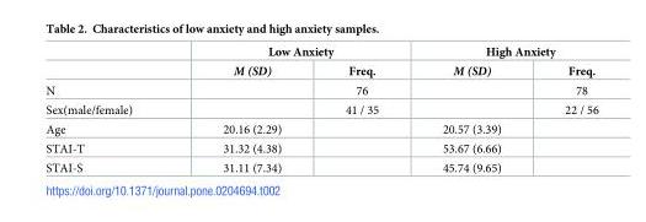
<table><thead><tr><td rowspan="2"></td><td colspan="2">Low Anxiety</td><td colspan="2">High Anxiety</td></tr><tr><td>M (SD)</td><td>Freq.</td><td>M (SD)</td><td>Freq.</td></tr></thead><tbody><tr><td>N</td><td></td><td>76</td><td></td><td>78</td></tr><tr><td>Sex(male/female)</td><td></td><td>41 / 35</td><td></td><td>22 / 56</td></tr><tr><td>Age</td><td>20.16 (2.29)</td><td></td><td>20.57 (3.39)</td><td></td></tr><tr><td>STAI-T</td><td>31.32 (4.38)</td><td></td><td>53.67 (6.66)</td><td></td></tr><tr><td>STAI-S</td><td>31.11 (7.34)</td><td></td><td>45.74 (9.65)</td><td></td></tr></tbody></table>